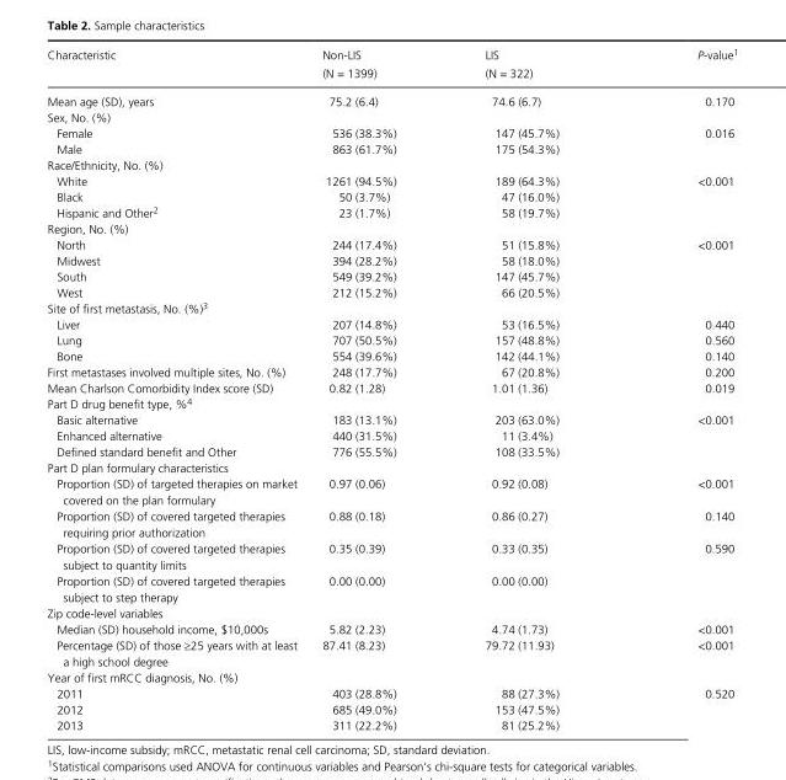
<table><thead><tr><td>Characteristic</td><td>Non- LIS</td><td>LIS</td><td>P-value1</td></tr></thead><tbody><tr><td></td><td>(N = 1399)</td><td>(N = 322)</td><td></td></tr><tr><td>Mean age (SD), years</td><td>75.2 (6.4)</td><td>74.6 (6.7)</td><td>0.170</td></tr><tr><td colspan="4">Sex, No. (%)</td></tr><tr><td>Female</td><td>536 (38.3%)</td><td>147 (45.7%)</td><td rowspan="2">0.016</td></tr><tr><td>Male</td><td>863 (61.7%)</td><td>175 (54.3%)</td></tr><tr><td colspan="4">Race/Ethnicity, No. (%)</td></tr><tr><td>White</td><td>1261 (94.5%)</td><td>189 (64.3%)</td><td rowspan="3">&lt;0.001</td></tr><tr><td>Black</td><td>50 (3.7%)</td><td>47 (16.0%)</td></tr><tr><td>Hispanic and Other2</td><td>23 (1.7%)</td><td>58 (19.7%)</td></tr><tr><td colspan="4">Region, No. (%)</td></tr><tr><td>North</td><td>244 (17.4%)</td><td>51 (15.8%)</td><td rowspan="4">&lt;0.001</td></tr><tr><td>Midwest</td><td>394 (28.2%)</td><td>58 (18.0%)</td></tr><tr><td>South</td><td>549 (39.2%)</td><td>147 (45.7%)</td></tr><tr><td>West</td><td>212 (15.2%)</td><td>66 (20.5%)</td></tr><tr><td colspan="4">Site of first metastasis, No. (%)3</td></tr><tr><td>Liver</td><td>207 (14.8%)</td><td>53 (16.5%)</td><td>0.440</td></tr><tr><td>Lung</td><td>707 (50.5%)</td><td>157 (48.8%)</td><td>0.560</td></tr><tr><td>Bone</td><td>554 (39.6%)</td><td>142 (44.1%)</td><td>0.140</td></tr><tr><td>First metastases involved multiple sites, No. (%)</td><td>248 (17.7%)</td><td>67 (20.8%)</td><td>0.200</td></tr><tr><td>Mean Charlson Comorbidity Index score (SD)</td><td>0.82 (1.28)</td><td>1.01 (1.36)</td><td>0.019</td></tr><tr><td colspan="4">Part D drug benefit type, %4</td></tr><tr><td>Basic alternative</td><td>183 (13.1%)</td><td>203 (63.0%)</td><td rowspan="3">&lt;0.001</td></tr><tr><td>Enhanced alternative</td><td>440 (31.5%)</td><td>11 (3.4%)</td></tr><tr><td>Defined standard benefit and Other</td><td>776 (55.5%)</td><td>108 (33.5%)</td></tr><tr><td colspan="4">Part D plan formulary characteristics</td></tr><tr><td>Proportion (SD) of targeted therapies on market covered on the plan formulary</td><td>0.97 (0.06)</td><td>0.92 (0.08)</td><td>&lt;0.001</td></tr><tr><td>Proportion (SD) of covered targeted therapies requiring prior authorization</td><td>0.88 (0.18)</td><td>0.86 (0.27)</td><td>0.140</td></tr><tr><td>Proportion (SD) of covered targeted therapies subject to quantity limits</td><td>0.35 (0.39)</td><td>0.33 (0.35)</td><td>0.590</td></tr><tr><td>Proportion (SD) of covered targeted therapies subject to step therapy</td><td>0.00 (0.00)</td><td>0.00 (0.00)</td><td></td></tr><tr><td colspan="4">Zip code- level variables</td></tr><tr><td>Median (SD) household income, $10,000s</td><td>5.82 (2.23)</td><td>4.74 (1.73)</td><td>&lt;0.001</td></tr><tr><td>Percentage (SD) of those ≥25 years with at least a high school degree</td><td>87.41 (8.23)</td><td>79.72 (11.93)</td><td>&lt;0.001</td></tr><tr><td colspan="4">Year of first mRCC diagnosis, No. (%)</td></tr><tr><td>2011</td><td>403 (28.8%)</td><td>88 (27.3%)</td><td rowspan="3">0.520</td></tr><tr><td>2012</td><td>685 (49.0%)</td><td>153 (47.5%)</td></tr><tr><td>2013</td><td>311 (22.2%)</td><td>81 (25.2%)</td></tr></tbody></table>